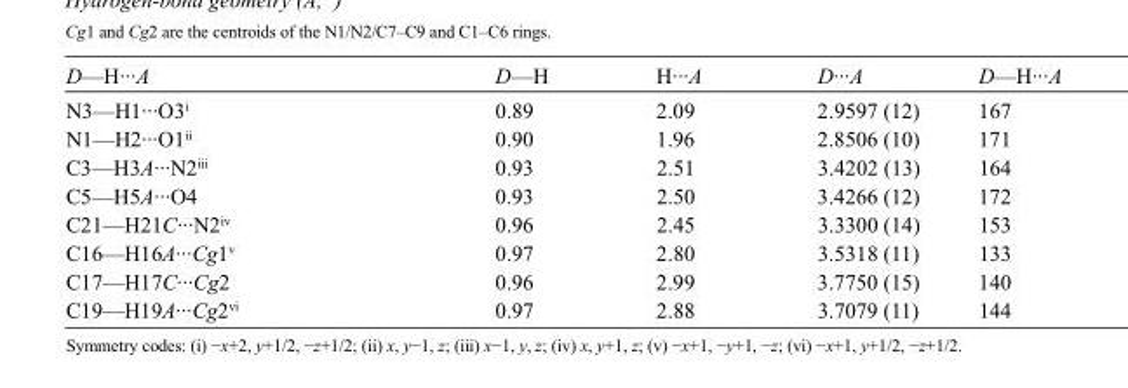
<table><tbody><tr><td>D—H···A</td><td>D—H</td><td>H···A</td><td>D···A</td><td>D—H···A</td></tr><tr><td>N3—H1···O3<sup>i</sup></td><td>0.89</td><td>2.09</td><td>2.9597 (12)</td><td>167</td></tr><tr><td>N1—H2···O1<sup>ii</sup></td><td>0.90</td><td>1.96</td><td>2.8506 (10)</td><td>171</td></tr><tr><td>C3—H3A···N2<sup>iii</sup></td><td>0.93</td><td>2.51</td><td>3.4202 (13)</td><td>164</td></tr><tr><td>C5—H5A···O4</td><td>0.93</td><td>2.50</td><td>3.4266 (12)</td><td>172</td></tr><tr><td>C21—H21C···N2<sup>iv</sup></td><td>0.96</td><td>2.45</td><td>3.3300 (14)</td><td>153</td></tr><tr><td>C16—H16A···Cg1<sup>v</sup></td><td>0.97</td><td>2.80</td><td>3.5318 (11)</td><td>133</td></tr><tr><td>C17—H17C···Cg2</td><td>0.96</td><td>2.99</td><td>3.7750 (15)</td><td>140</td></tr><tr><td>C19—H19A···Cg2<sup>vi</sup></td><td>0.97</td><td>2.88</td><td>3.7079 (11)</td><td>144</td></tr></tbody></table>